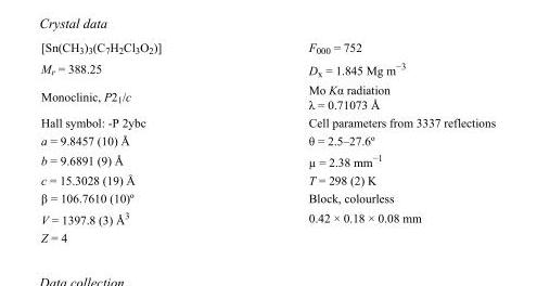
<table><tbody><tr><td>[Sn(CH<sub>3</sub>)<sub>3</sub>(C<sub>7</sub>H<sub>2</sub>Cl<sub>3</sub>O<sub>2</sub>)]</td><td>F000 = 752</td></tr><tr><td>M<sub>r</sub> = 388.25</td><td>D<sub>x</sub> = 1.845 Mg m<sup>−3</sup></td></tr><tr><td>Monoclinic, P2<sub>1</sub>/c</td><td>Mo Kα radiation λ = 0.71073 Å</td></tr><tr><td>Hall symbol: -P 2ybc</td><td>Cell parameters from 3337 reflections</td></tr><tr><td>a = 9.8457 (10) Å</td><td>θ = 2.5–27.6º</td></tr><tr><td>b = 9.6891 (9) Å</td><td>µ = 2.38 mm<sup>−1</sup></td></tr><tr><td>c = 15.3028 (19) Å</td><td>T = 298 (2) K</td></tr><tr><td>β = 106.7610 (10)º</td><td>Block, colourless</td></tr><tr><td>V = 1397.8 (3) Å<sup>3</sup></td><td>0.42 × 0.18 × 0.08 mm</td></tr><tr><td>Z = 4</td><td></td></tr></tbody></table>